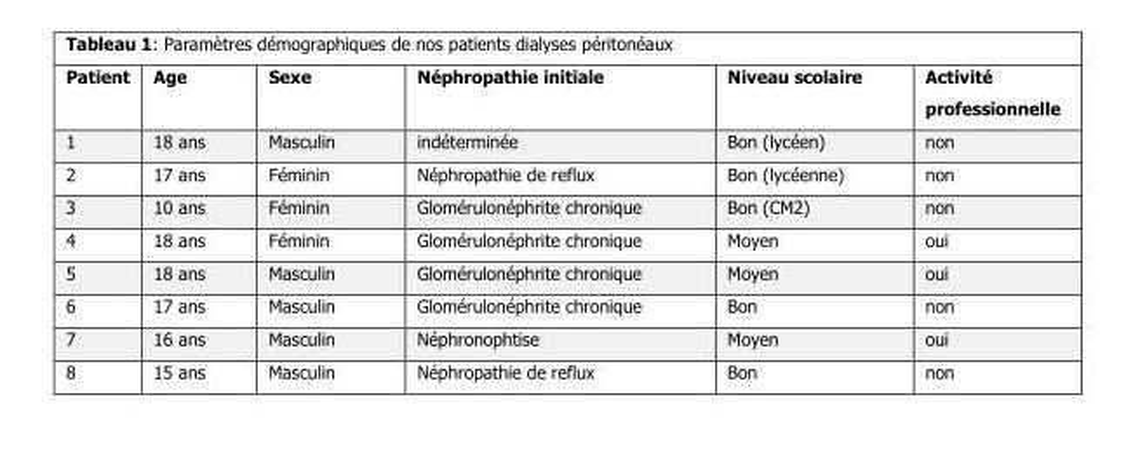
<table><thead><tr><td>Patient</td><td>Age</td><td>Sexe</td><td>Néphropathie initiale</td><td>Niveau scolaire</td><td>Activité professionnelle</td></tr></thead><tbody><tr><td>1</td><td>18 ans</td><td>Masculin</td><td>indéterminée</td><td>Bon (lycéen)</td><td>non</td></tr><tr><td>2</td><td>17 ans</td><td>Féminin</td><td>Néphropathie de reflux</td><td>Bon (lycéenne)</td><td>non</td></tr><tr><td>3</td><td>10 ans</td><td>Féminin</td><td>Glomérulonéphrite chronique</td><td>Bon (CM2)</td><td>non</td></tr><tr><td>4</td><td>18 ans</td><td>Féminin</td><td>Glomérulonéphrite chronique</td><td>Moyen</td><td>oui</td></tr><tr><td>5</td><td>18 ans</td><td>Masculin</td><td>Glomérulonéphrite chronique</td><td>Moyen</td><td>oui</td></tr><tr><td>6</td><td>17 ans</td><td>Masculin</td><td>Glomérulonéphrite chronique</td><td>Bon</td><td>non</td></tr><tr><td>7</td><td>16 ans</td><td>Masculin</td><td>Néphronophtise</td><td>Moyen</td><td>oui</td></tr><tr><td>8</td><td>15 ans</td><td>Masculin</td><td>Néphropathie de reflux</td><td>Bon</td><td>non</td></tr></tbody></table>